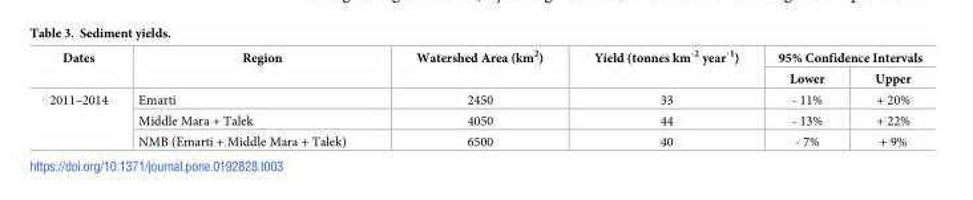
<table><thead><tr><td rowspan="2">Dates</td><td rowspan="2">Region</td><td rowspan="2">Watershed Area (km<sup>2</sup>)</td><td rowspan="2">Yield (tonnes km<sup>-2</sup> year<sup>-1</sup>)</td><td colspan="2">95% Confidence Intervals</td></tr><tr><td>Lower</td><td>Upper</td></tr></thead><tbody><tr><td rowspan="3">2011–2014</td><td>Emarti</td><td>2450</td><td>33</td><td>- 11%</td><td>+ 20%</td></tr><tr><td>Middle Mara + Talek</td><td>4050</td><td>44</td><td>- 13%</td><td>+ 22%</td></tr><tr><td>NMB (Emarti + Middle Mara + Talek)</td><td>6500</td><td>40</td><td>- 7%</td><td>+ 9%</td></tr></tbody></table>